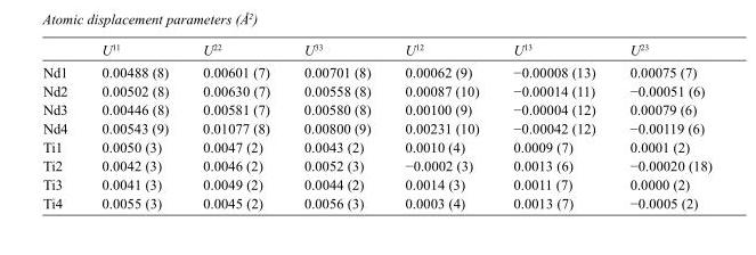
<table><thead><tr><td></td><td>U<sup>11</sup></td><td>U<sup>22</sup></td><td>U<sup>33</sup></td><td>U<sup>12</sup></td><td>U<sup>13</sup></td><td>U<sup>23</sup></td></tr></thead><tbody><tr><td>Nd1</td><td>0.00488 (8)</td><td>0.00601 (7)</td><td>0.00701 (8)</td><td>0.00062 (9)</td><td>−0.00008 (13)</td><td>0.00075 (7)</td></tr><tr><td>Nd2</td><td>0.00502 (8)</td><td>0.00630 (7)</td><td>0.00558 (8)</td><td>0.00087 (10)</td><td>−0.00014 (11)</td><td>−0.00051 (6)</td></tr><tr><td>Nd3</td><td>0.00446 (8)</td><td>0.00581 (7)</td><td>0.00580 (8)</td><td>0.00100 (9)</td><td>−0.00004 (12)</td><td>0.00079 (6)</td></tr><tr><td>Nd4</td><td>0.00543 (9)</td><td>0.01077 (8)</td><td>0.00800 (9)</td><td>0.00231 (10)</td><td>−0.00042 (12)</td><td>−0.00119 (6)</td></tr><tr><td>Ti1</td><td>0.0050 (3)</td><td>0.0047 (2)</td><td>0.0043 (2)</td><td>0.0010 (4)</td><td>0.0009 (7)</td><td>0.0001 (2)</td></tr><tr><td>Ti2</td><td>0.0042 (3)</td><td>0.0046 (2)</td><td>0.0052 (3)</td><td>−0.0002 (3)</td><td>0.0013 (6)</td><td>−0.00020 (18)</td></tr><tr><td>Ti3</td><td>0.0041 (3)</td><td>0.0049 (2)</td><td>0.0044 (2)</td><td>0.0014 (3)</td><td>0.0011 (7)</td><td>0.0000 (2)</td></tr><tr><td>Ti4</td><td>0.0055 (3)</td><td>0.0045 (2)</td><td>0.0056 (3)</td><td>0.0003 (4)</td><td>0.0013 (7)</td><td>−0.0005 (2)</td></tr></tbody></table>